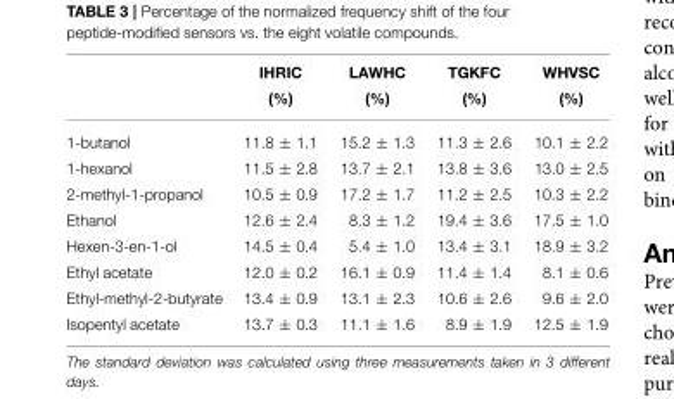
<table><thead><tr><td></td><td>IHRIC (%)</td><td>LAWHC (%)</td><td>TGKFC (%)</td><td>WHVSC (%)</td></tr></thead><tbody><tr><td>1-butanol</td><td>11.8 ± 1.1</td><td>15.2 ± 1.3</td><td>11.3 ± 2.6</td><td>10.1 ± 2.2</td></tr><tr><td>1-hexanol</td><td>11.5 ± 2.8</td><td>13.7 ± 2.1</td><td>13.8 ± 3.6</td><td>13.0 ± 2.5</td></tr><tr><td>2-methyl-1-propanol</td><td>10.5 ± 0.9</td><td>17.2 ± 1.7</td><td>11.2 ± 2.5</td><td>10.3 ± 2.2</td></tr><tr><td>Ethanol</td><td>12.6 ± 2.4</td><td>8.3 ± 1.2</td><td>19.4 ± 3.6</td><td>17.5 ± 1.0</td></tr><tr><td>Hexen-3-en-1-ol</td><td>14.5 ± 0.4</td><td>5.4 ± 1.0</td><td>13.4 ± 3.1</td><td>18.9 ± 3.2</td></tr><tr><td>Ethyl acetate</td><td>12.0 ± 0.2</td><td>16.1 ± 0.9</td><td>11.4 ± 1.4</td><td>8.1 ± 0.6</td></tr><tr><td>Ethyl-methyl-2-butyrate</td><td>13.4 ± 0.9</td><td>13.1 ± 2.3</td><td>10.6 ± 2.6</td><td>9.6 ± 2.0</td></tr><tr><td>Isopentyl acetate</td><td>13.7 ± 0.3</td><td>11.1 ± 1.6</td><td>8.9 ± 1.9</td><td>12.5 ± 1.9</td></tr></tbody></table>